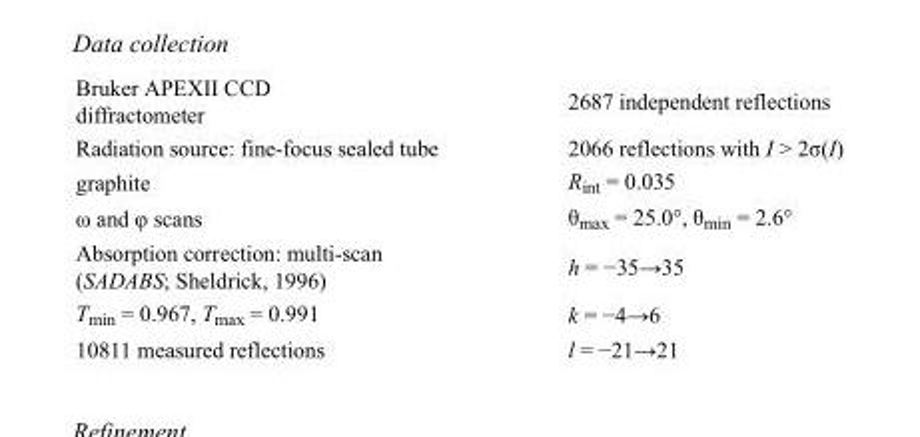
<table><tbody><tr><td>Bruker APEXII CCD diffractometer</td><td>2687 independent reflections</td></tr><tr><td>Radiation source: fine-focus sealed tube</td><td>2066 reflections with I &gt; 2σ(I)</td></tr><tr><td>graphite</td><td>R<sub>int</sub> = 0.035</td></tr><tr><td>ω and φ scans</td><td>θ<sub>max</sub> = 25.0°, θ<sub>min</sub> = 2.6°</td></tr><tr><td>Absorption correction: multi-scan (SADABS; Sheldrick, 1996)</td><td>h = −35→35</td></tr><tr><td>T<sub>min</sub> = 0.967, T<sub>max</sub> = 0.991</td><td>k = −4→6</td></tr><tr><td>10811 measured reflections</td><td>l = −21→21</td></tr></tbody></table>